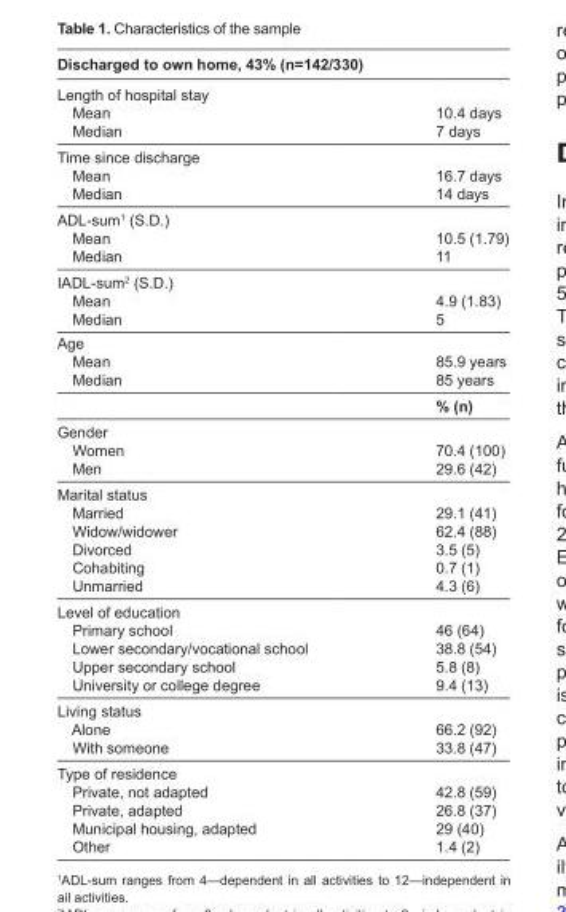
<table><thead><tr><td colspan="2">Discharged to own home, 43% (n=142/330)</td></tr><tr><td>Length of hospital stay</td><td></td></tr></thead><tbody><tr><td>Mean</td><td>10.4 days</td></tr><tr><td>Median</td><td>7 days</td></tr><tr><td colspan="2">Time since discharge</td></tr><tr><td>Mean</td><td>16.7 days</td></tr><tr><td>Median</td><td>14 days</td></tr><tr><td colspan="2">ADL-sum<sup>1</sup> (S.D.)</td></tr><tr><td>Mean</td><td>10.5 (1.79)</td></tr><tr><td>Median</td><td>11</td></tr><tr><td colspan="2">IADL-sum<sup>2</sup> (S.D.)</td></tr><tr><td>Mean</td><td>4.9 (1.83)</td></tr><tr><td>Median</td><td>5</td></tr><tr><td colspan="2">Age</td></tr><tr><td>Mean</td><td>85.9 years</td></tr><tr><td rowspan="2">Median</td><td>85 years</td></tr><tr><td>% (n)</td></tr><tr><td colspan="2">Gender</td></tr><tr><td>Women</td><td>70.4 (100)</td></tr><tr><td>Men</td><td>29.6 (42)</td></tr><tr><td colspan="2">Marital status</td></tr><tr><td>Married</td><td>29.1 (41)</td></tr><tr><td>Widow/widower</td><td>62.4 (88)</td></tr><tr><td>Divorced</td><td>3.5 (5)</td></tr><tr><td>Cohabiting</td><td>0.7 (1)</td></tr><tr><td>Unmarried</td><td>4.3 (6)</td></tr><tr><td colspan="2">Level of education</td></tr><tr><td>Primary school</td><td>46 (64)</td></tr><tr><td>Lower secondary/vocational school</td><td>38.8 (54)</td></tr><tr><td>Upper secondary school</td><td>5.8 (8)</td></tr><tr><td>University or college degree</td><td>9.4 (13)</td></tr><tr><td colspan="2">Living status</td></tr><tr><td>Alone</td><td>66.2 (92)</td></tr><tr><td>With someone</td><td>33.8 (47)</td></tr><tr><td colspan="2">Type of residence</td></tr><tr><td>Private, not adapted</td><td>42.8 (59)</td></tr><tr><td>Private, adapted</td><td>26.8 (37)</td></tr><tr><td>Municipal housing, adapted</td><td>29 (40)</td></tr><tr><td>Other</td><td>1.4 (2)</td></tr></tbody></table>